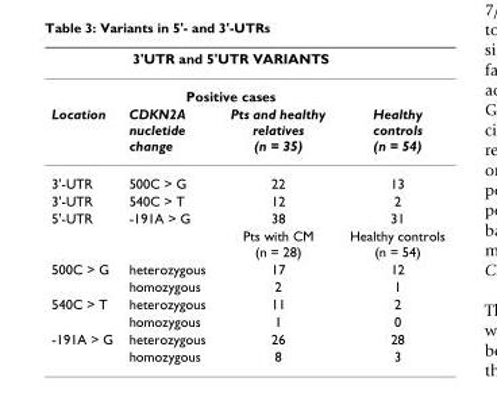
<table><thead><tr><td rowspan="3">Location</td><td rowspan="2" colspan="2">3&#x27;UTR and 5&#x27;UTR VARIANTS Positive cases</td><td rowspan="3">Healthy controls (n = 54)</td></tr><tr></tr><tr><td>CDKN2A nucletide change</td><td>Pts and healthy relatives (n = 35)</td></tr></thead><tbody><tr><td>3&#x27;-UTR</td><td>500C &gt; G</td><td>22</td><td>13</td></tr><tr><td>3&#x27;-UTR</td><td>540C &gt; T</td><td>12</td><td>2</td></tr><tr><td rowspan="2">5&#x27;-UTR</td><td>-191A &gt; G</td><td>38</td><td>31</td></tr><tr><td></td><td>Pts with CM (n = 28)</td><td>Healthy controls (n = 54)</td></tr><tr><td rowspan="2">500C &gt; G</td><td>heterozygous</td><td>17</td><td>12</td></tr><tr><td>homozygous</td><td>2</td><td>1</td></tr><tr><td rowspan="2">540C &gt; T</td><td>heterozygous</td><td>11</td><td>2</td></tr><tr><td>homozygous</td><td>1</td><td>0</td></tr><tr><td rowspan="2">-191A &gt; G</td><td>heterozygous</td><td>26</td><td>28</td></tr><tr><td>homozygous</td><td>8</td><td>3</td></tr></tbody></table>